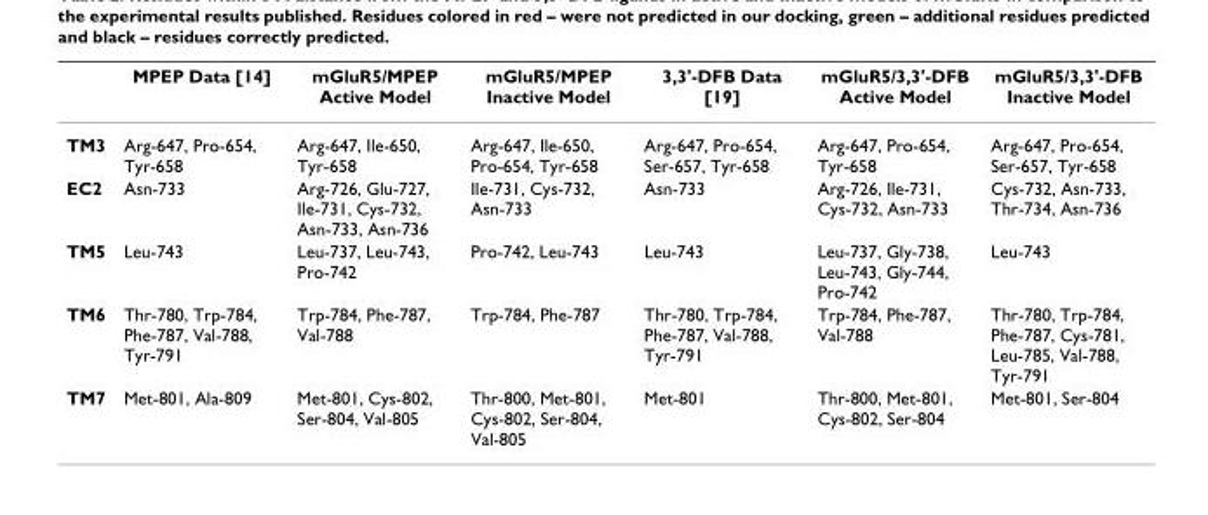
<table><thead><tr><td></td><td>MPEP Data [14]</td><td>mGluR5/MPEP Active Model</td><td>mGluR5/MPEP Inactive Model</td><td>3,3&#x27;-DFB Data [19]</td><td>mGluR5/3,3&#x27;-DFB Active Model</td><td>mGluR5/3,3&#x27;-DFB Inactive Model</td></tr></thead><tbody><tr><td>TM3</td><td>Arg-647, Pro-654, Tyr-658</td><td>Arg-647, Ile-650, Tyr-658</td><td>Arg-647, Ile-650, Pro-654, Tyr-658</td><td>Arg-647, Pro-654, Ser-657, Tyr-658</td><td>Arg-647, Pro-654, Tyr-658</td><td>Arg-647, Pro-654, Ser-657, Tyr-658</td></tr><tr><td>EC2</td><td>Asn-733</td><td>Arg-726, Glu-727, Ile-731, Cys-732, Asn-733, Asn-736</td><td>Ile-731, Cys-732, Asn-733</td><td>Asn-733</td><td>Arg-726, Ile-731, Cys-732, Asn-733</td><td>Cys-732, Asn-733, Thr-734, Asn-736</td></tr><tr><td>TM5</td><td>Leu-743</td><td>Leu-737, Leu-743, Pro-742</td><td>Pro-742, Leu-743</td><td>Leu-743</td><td>Leu-737, Gly-738, Leu-743, Gly-744, Pro-742</td><td>Leu-743</td></tr><tr><td>TM6</td><td>Thr-780, Trp-784, Phe-787, Val-788, Tyr-791</td><td>Trp-784, Phe-787, Val-788</td><td>Trp-784, Phe-787</td><td>Thr-780, Trp-784, Phe-787, Val-788, Tyr-791</td><td>Trp-784, Phe-787, Val-788</td><td>Thr-780, Trp-784, Phe-787, Cys-781, Leu-785, Val-788, Tyr-791</td></tr><tr><td>TM7</td><td>Met-801, Ala-809</td><td>Met-801, Cys-802, Ser-804, Val-805</td><td>Thr-800, Met-801, Cys-802, Ser-804, Val-805</td><td>Met-801</td><td>Thr-800, Met-801, Cys-802, Ser-804</td><td>Met-801, Ser-804</td></tr></tbody></table>